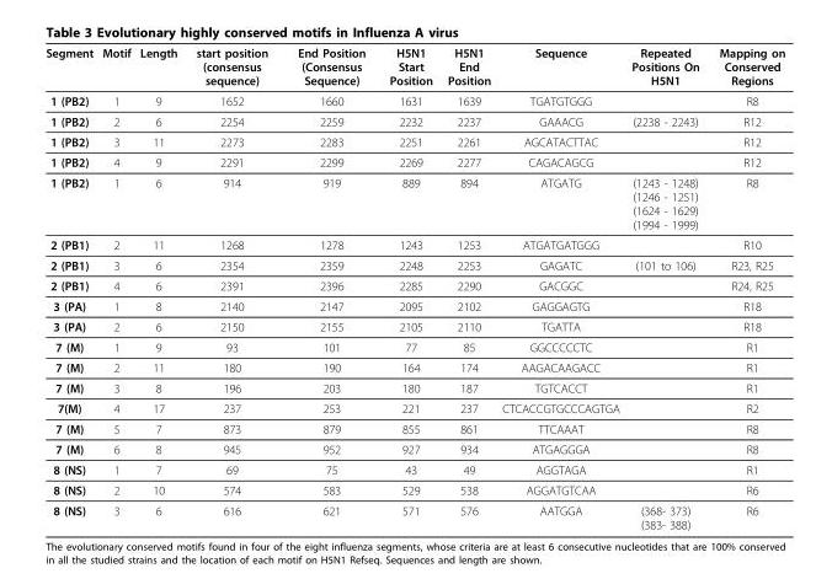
<table><thead><tr><td>Segment</td><td>Motif</td><td>Length</td><td>start position (consensus sequence)</td><td>End Position (Consensus Sequence)</td><td>H5N1 Start Position</td><td>H5N1 End Position</td><td>Sequence</td><td>Repeated Positions On H5N1</td><td>Mapping on Conserved Regions</td></tr></thead><tbody><tr><td>1 (PB2)</td><td>1</td><td>9</td><td>1652</td><td>1660</td><td>1631</td><td>1639</td><td>TGATGTGGG</td><td></td><td>R8</td></tr><tr><td>1 (PB2)</td><td>2</td><td>6</td><td>2254</td><td>2259</td><td>2232</td><td>2237</td><td>GAAACG</td><td>(2238 - 2243)</td><td>R12</td></tr><tr><td>1 (PB2)</td><td>3</td><td>11</td><td>2273</td><td>2283</td><td>2251</td><td>2261</td><td>AGCATACTTAC</td><td></td><td>R12</td></tr><tr><td>1 (PB2)</td><td>4</td><td>9</td><td>2291</td><td>2299</td><td>2269</td><td>2277</td><td>CAGACAGCG</td><td></td><td>R12</td></tr><tr><td>1 (PB2)</td><td>1</td><td>6</td><td>914</td><td>919</td><td>889</td><td>894</td><td>ATGATG</td><td>(1243 - 1248) (1246 - 1251) (1624 - 1629) (1994 - 1999)</td><td>R8</td></tr><tr><td>2 (PB1)</td><td>2</td><td>11</td><td>1268</td><td>1278</td><td>1243</td><td>1253</td><td>ATGATGATGGG</td><td></td><td>R10</td></tr><tr><td>2 (PB1)</td><td>3</td><td>6</td><td>2354</td><td>2359</td><td>2248</td><td>2253</td><td>GAGATC</td><td>(101 to 106)</td><td>R23, R25</td></tr><tr><td>2 (PB1)</td><td>4</td><td>6</td><td>2391</td><td>2396</td><td>2285</td><td>2290</td><td>GACGGC</td><td></td><td>R24, R25</td></tr><tr><td>3 (PA)</td><td>1</td><td>8</td><td>2140</td><td>2147</td><td>2095</td><td>2102</td><td>GAGGAGTG</td><td></td><td>R18</td></tr><tr><td>3 (PA)</td><td>2</td><td>6</td><td>2150</td><td>2155</td><td>2105</td><td>2110</td><td>TGATTA</td><td></td><td>R18</td></tr><tr><td>7 (M)</td><td>1</td><td>9</td><td>93</td><td>101</td><td>77</td><td>85</td><td>GGCCCCCTC</td><td></td><td>R1</td></tr><tr><td>7 (M)</td><td>2</td><td>11</td><td>180</td><td>190</td><td>164</td><td>174</td><td>AAGACAAGACC</td><td></td><td>R1</td></tr><tr><td>7 (M)</td><td>3</td><td>8</td><td>196</td><td>203</td><td>180</td><td>187</td><td>TGTCACCT</td><td></td><td>R1</td></tr><tr><td>7(M)</td><td>4</td><td>17</td><td>237</td><td>253</td><td>221</td><td>237</td><td>CTCACCGTGCCCAGTGA</td><td></td><td>R2</td></tr><tr><td>7 (M)</td><td>5</td><td>7</td><td>873</td><td>879</td><td>855</td><td>861</td><td>TTCAAAT</td><td></td><td>R8</td></tr><tr><td>7 (M)</td><td>6</td><td>8</td><td>945</td><td>952</td><td>927</td><td>934</td><td>ATGAGGGA</td><td></td><td>R8</td></tr><tr><td>8 (NS)</td><td>1</td><td>7</td><td>69</td><td>75</td><td>43</td><td>49</td><td>AGGTAGA</td><td></td><td>R1</td></tr><tr><td>8 (NS)</td><td>2</td><td>10</td><td>574</td><td>583</td><td>529</td><td>538</td><td>AGGATGTCAA</td><td></td><td>R6</td></tr><tr><td>8 (NS)</td><td>3</td><td>6</td><td>616</td><td>621</td><td>571</td><td>576</td><td>AATGGA</td><td>(368- 373) (383- 388)</td><td>R6</td></tr></tbody></table>